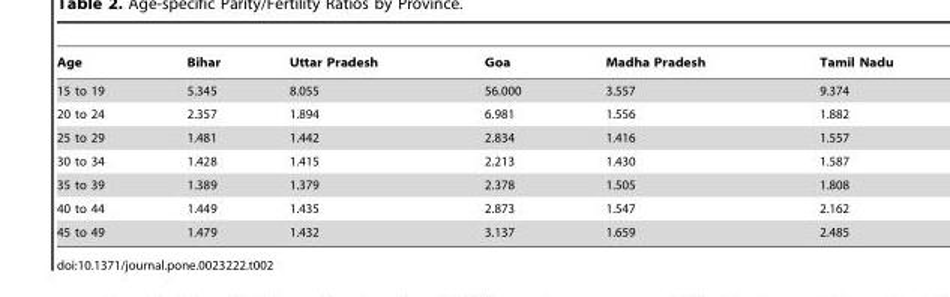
<table><thead><tr><td>Age</td><td>Bihar</td><td>Uttar Pradesh</td><td>Goa</td><td>Madha Pradesh</td><td>Tamil Nadu</td></tr></thead><tbody><tr><td>15 to 19</td><td>5.345</td><td>8.055</td><td>56.000</td><td>3.557</td><td>9.374</td></tr><tr><td>20 to 24</td><td>2.357</td><td>1.894</td><td>6.981</td><td>1.556</td><td>1.882</td></tr><tr><td>25 to 29</td><td>1.481</td><td>1.442</td><td>2.834</td><td>1.416</td><td>1.557</td></tr><tr><td>30 to 34</td><td>1.428</td><td>1.415</td><td>2.213</td><td>1.430</td><td>1.587</td></tr><tr><td>35 to 39</td><td>1.389</td><td>1.379</td><td>2.378</td><td>1.505</td><td>1.808</td></tr><tr><td>40 to 44</td><td>1.449</td><td>1.435</td><td>2.873</td><td>1.547</td><td>2.162</td></tr><tr><td>45 to 49</td><td>1.479</td><td>1.432</td><td>3.137</td><td>1.659</td><td>2.485</td></tr></tbody></table>